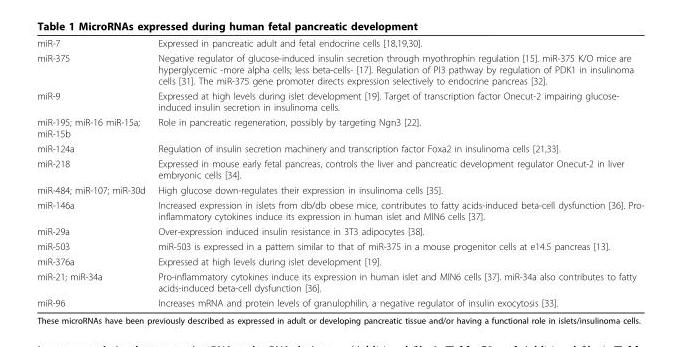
<table><tbody><tr><td>miR-7</td><td>Expressed in pancreatic adult and fetal endocrine cells [18,19,30].</td></tr><tr><td>miR-375</td><td>Negative regulator of glucose-induced insulin secretion through myothrophin regulation [15]. miR-375 K/O mice are hyperglycemic -more alpha cells; less beta-cells- [17]. Regulation of PI3 pathway by regulation of PDK1 in insulinoma cells [31]. The miR-375 gene promoter directs expression selectively to endocrine pancreas [32].</td></tr><tr><td>miR-9</td><td>Expressed at high levels during islet development [19]. Target of transcription factor Onecut-2 impairing glucose- induced insulin secretion in insulinoma cells.</td></tr><tr><td>miR-195; miR-16 miR-15a; miR-15b</td><td>Role in pancreatic regeneration, possibly by targeting Ngn3 [22].</td></tr><tr><td>miR-124a</td><td>Regulation of insulin secretion machinery and transcription factor Foxa2 in insulinoma cells [21,33].</td></tr><tr><td>miR-218</td><td>Expressed in mouse early fetal pancreas, controls the liver and pancreatic development regulator Onecut-2 in liver embryonic cells [34].</td></tr><tr><td>miR-484; miR-107; miR-30d</td><td>High glucose down-regulates their expression in insulinoma cells [35].</td></tr><tr><td>miR-146a</td><td>Increased expression in islets from db/db obese mice, contributes to fatty acids-induced beta-cell dysfunction [36]. Pro- inflammatory cytokines induce its expression in human islet and MIN6 cells [37].</td></tr><tr><td>miR-29a</td><td>Over-expression induced insulin resistance in 3T3 adipocytes [38].</td></tr><tr><td>miR-503</td><td>miR-503 is expressed in a pattern similar to that of miR-375 in a mouse progenitor cells at e14.5 pancreas [13].</td></tr><tr><td>miR-376a</td><td>Expressed at high levels during islet development [19].</td></tr><tr><td>miR-21; miR-34a</td><td>Pro-inflammatory cytokines induce its expression in human islet and MIN6 cells [37]. miR-34a also contributes to fatty acids-induced beta-cell dysfunction [36].</td></tr><tr><td>miR-96</td><td>Increases mRNA and protein levels of granulophilin, a negative regulator of insulin exocytosis [33].</td></tr></tbody></table>